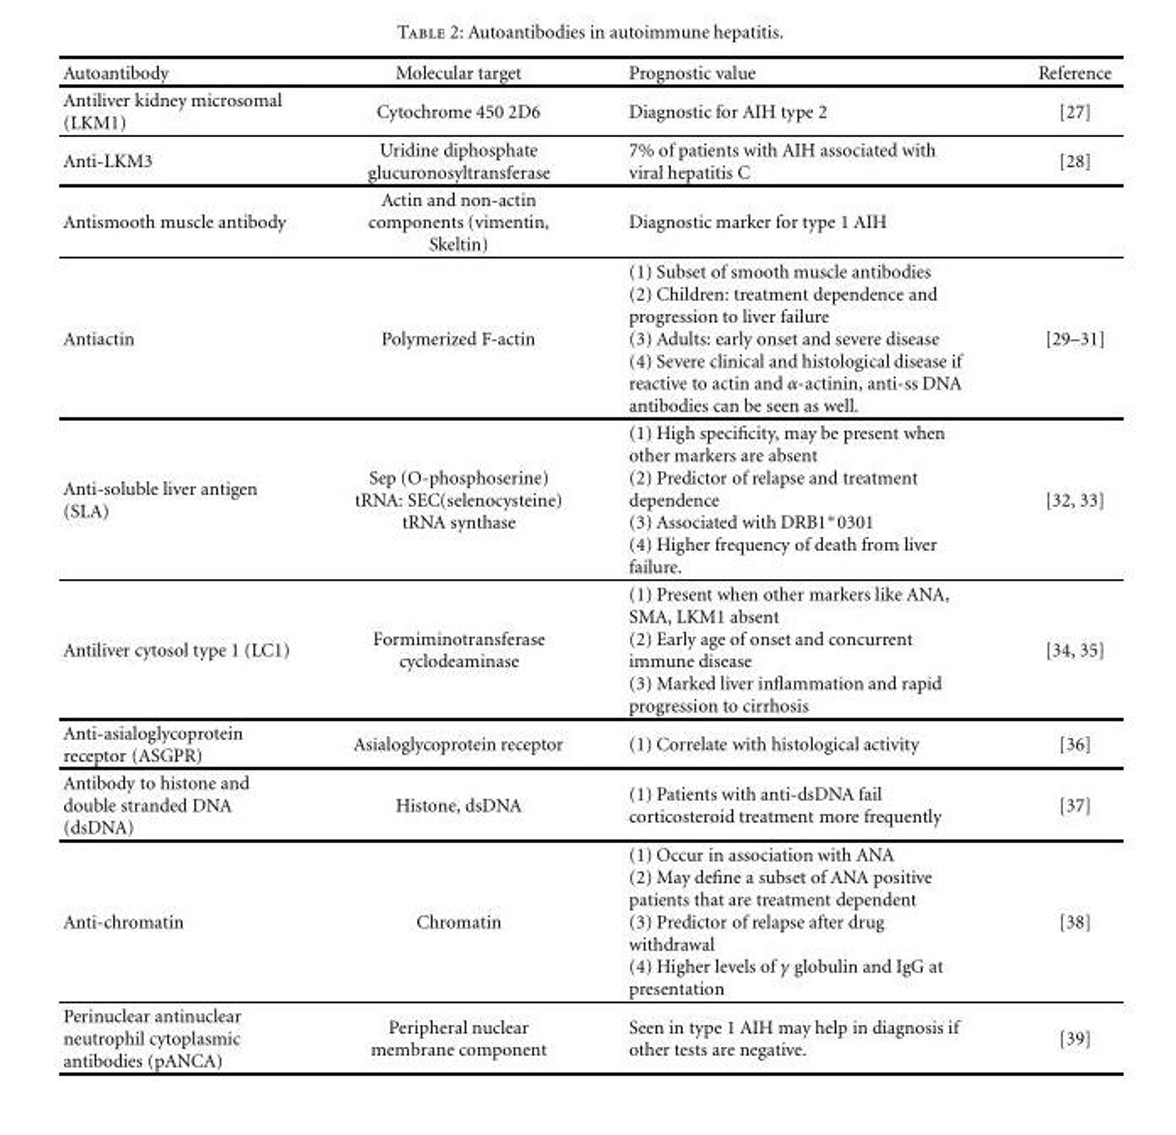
<table><thead><tr><td>Autoantibody</td><td>Molecular target</td><td>Prognostic value</td><td>Reference</td></tr></thead><tbody><tr><td>Antiliver kidney microsomal (LKM1)</td><td>Cytochrome 450 2D6</td><td>Diagnostic for AIH type 2</td><td>[27]</td></tr><tr><td>Anti-LKM3</td><td>Uridine diphosphate glucuronosyltransferase</td><td>7% of patients with AIH associated with viral hepatitis C</td><td>[28]</td></tr><tr><td>Antismooth muscle antibody</td><td>Actin and non-actin components (vimentin, Skeltin)</td><td>Diagnostic marker for type 1 AIH</td><td></td></tr><tr><td>Antiactin</td><td>Polymerized F-actin</td><td>(1) Subset of smooth muscle antibodies (2) Children: treatment dependence and progression to liver failure (3) Adults: early onset and severe disease (4) Severe clinical and histological disease if reactive to actin and α-actinin, anti-ss DNA antibodies can be seen as well.</td><td>[29–31]</td></tr><tr><td>Anti-soluble liver antigen (SLA)</td><td>Sep (O-phosphoserine) tRNA: SEC(selenocysteine) tRNA synthase</td><td>(1) High specificity, may be present when other markers are absent (2) Predictor of relapse and treatment dependence (3) Associated with DRB1∗0301 (4) Higher frequency of death from liver failure.</td><td>[32, 33]</td></tr><tr><td>Antiliver cytosol type 1 (LC1)</td><td>Formiminotransferase cyclodeaminase</td><td>(1) Present when other markers like ANA, SMA, LKM1 absent (2) Early age of onset and concurrent immune disease (3) Marked liver inflammation and rapid progression to cirrhosis</td><td>[34, 35]</td></tr><tr><td>Anti-asialoglycoprotein receptor (ASGPR)</td><td>Asialoglycoprotein receptor</td><td>(1) Correlate with histological activity</td><td>[36]</td></tr><tr><td>Antibody to histone and double stranded DNA (dsDNA)</td><td>Histone, dsDNA</td><td>(1) Patients with anti-dsDNA fail corticosteroid treatment more frequently</td><td>[37]</td></tr><tr><td>Anti-chromatin</td><td>Chromatin</td><td>(1) Occur in association with ANA (2) May define a subset of ANA positive patients that are treatment dependent (3) Predictor of relapse after drug withdrawal (4) Higher levels of γ globulin and IgG at presentation</td><td>[38]</td></tr><tr><td>Perinuclear antinuclear neutrophil cytoplasmic antibodies (pANCA)</td><td>Peripheral nuclear membrane component</td><td>Seen in type 1 AIH may help in diagnosis if other tests are negative.</td><td>[39]</td></tr></tbody></table>